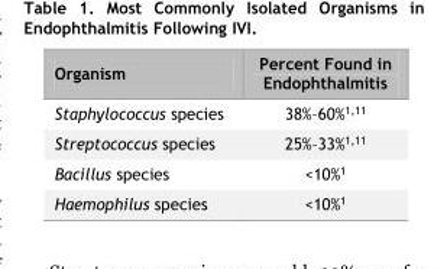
<table><thead><tr><td>Organism</td><td>Percent Found in Endophthalmitis</td></tr></thead><tbody><tr><td>Staphylococcus species</td><td>38%–60%<sup>1</sup>,<sup>11</sup></td></tr><tr><td>Streptococcus species</td><td>25%–33%<sup>1</sup>,<sup>11</sup></td></tr><tr><td>Bacillus species</td><td>&lt;10%<sup>1</sup></td></tr><tr><td>Haemophilus species</td><td>&lt;10%<sup>1</sup></td></tr></tbody></table>